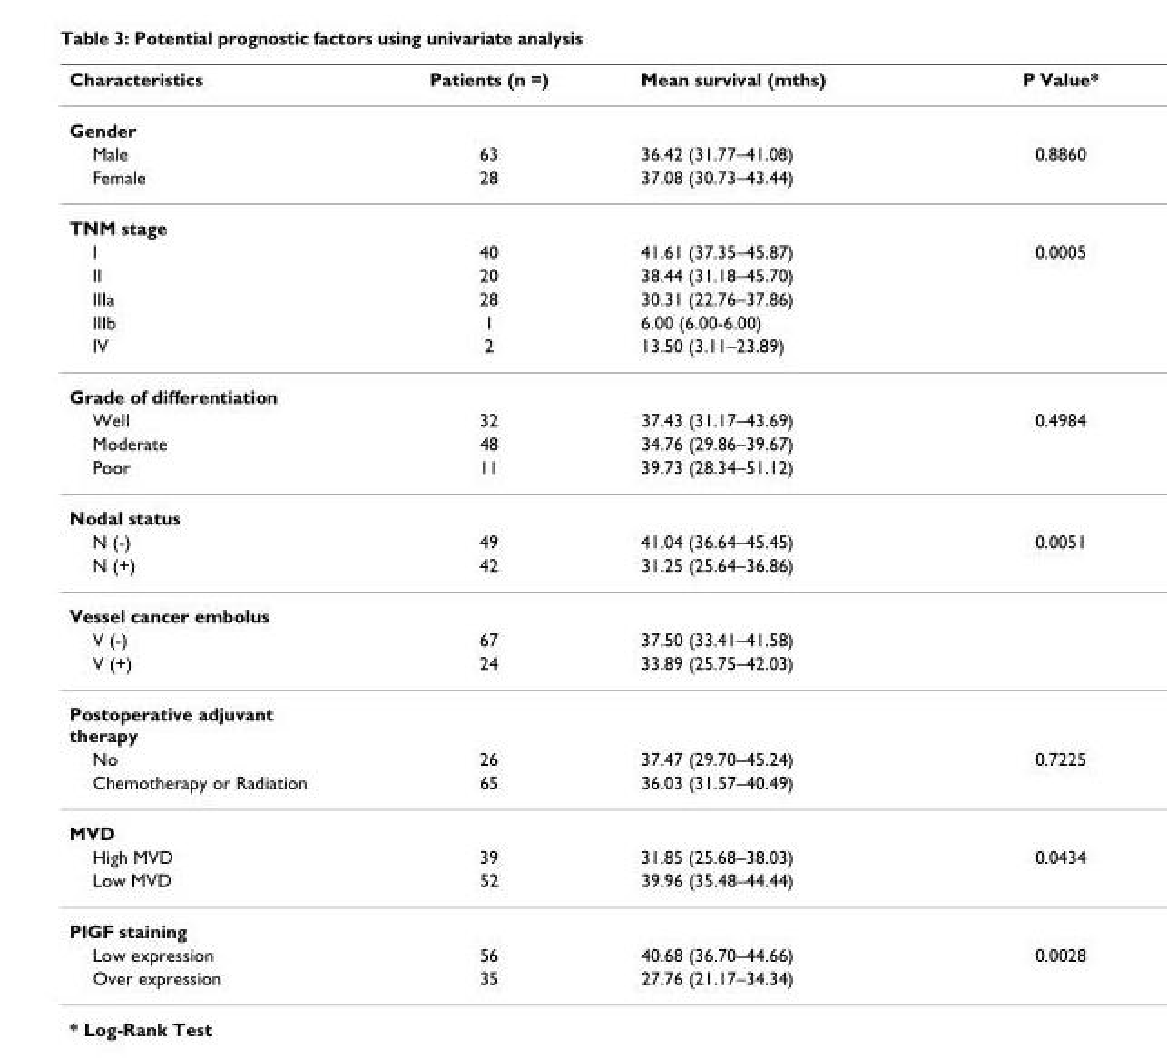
<table><thead><tr><td>Characteristics</td><td>Patients (n =)</td><td>Mean survival (mths)</td><td>P Value*</td></tr></thead><tbody><tr><td colspan="4">Gender</td></tr><tr><td>Male</td><td>63</td><td>36.42 (31.77–41.08)</td><td>0.8860</td></tr><tr><td>Female</td><td>28</td><td>37.08 (30.73–43.44)</td><td></td></tr><tr><td colspan="4">TNM stage</td></tr><tr><td>I</td><td>40</td><td>41.61 (37.35–45.87)</td><td>0.0005</td></tr><tr><td>II</td><td>20</td><td>38.44 (31.18–45.70)</td><td></td></tr><tr><td>IIIa</td><td>28</td><td>30.31 (22.76–37.86)</td><td></td></tr><tr><td>IIIb</td><td>1</td><td>6.00 (6.00-6.00)</td><td></td></tr><tr><td>IV</td><td>2</td><td>13.50 (3.11–23.89)</td><td></td></tr><tr><td colspan="4">Grade of differentiation</td></tr><tr><td>Well</td><td>32</td><td>37.43 (31.17–43.69)</td><td>0.4984</td></tr><tr><td>Moderate</td><td>48</td><td>34.76 (29.86–39.67)</td><td></td></tr><tr><td>Poor</td><td>11</td><td>39.73 (28.34–51.12)</td><td></td></tr><tr><td colspan="4">Nodal status</td></tr><tr><td>N (-)</td><td>49</td><td>41.04 (36.64–45.45)</td><td>0.0051</td></tr><tr><td>N (+)</td><td>42</td><td>31.25 (25.64–36.86)</td><td></td></tr><tr><td colspan="4">Vessel cancer embolus</td></tr><tr><td>V (-)</td><td>67</td><td>37.50 (33.41–41.58)</td><td></td></tr><tr><td>V (+)</td><td>24</td><td>33.89 (25.75–42.03)</td><td></td></tr><tr><td colspan="4">Postoperative adjuvant therapy</td></tr><tr><td>No</td><td>26</td><td>37.47 (29.70–45.24)</td><td>0.7225</td></tr><tr><td>Chemotherapy or Radiation</td><td>65</td><td>36.03 (31.57–40.49)</td><td></td></tr><tr><td colspan="4">MVD</td></tr><tr><td>High MVD</td><td>39</td><td>31.85 (25.68–38.03)</td><td>0.0434</td></tr><tr><td>Low MVD</td><td>52</td><td>39.96 (35.48–44.44)</td><td></td></tr><tr><td colspan="4">PlGF staining</td></tr><tr><td>Low expression</td><td>56</td><td>40.68 (36.70–44.66)</td><td>0.0028</td></tr><tr><td>Over expression</td><td>35</td><td>27.76 (21.17–34.34)</td><td></td></tr></tbody></table>